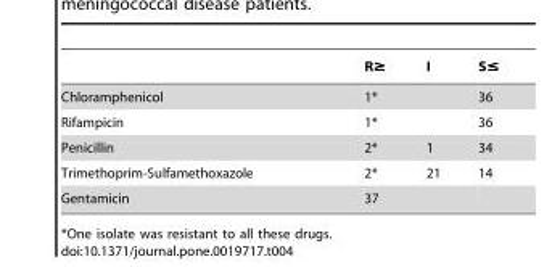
<table><thead><tr><td></td><td>R≥</td><td>I</td><td>S≤</td></tr></thead><tbody><tr><td>Chloramphenicol</td><td>1*</td><td></td><td>36</td></tr><tr><td>Rifampicin</td><td>1*</td><td></td><td>36</td></tr><tr><td>Penicillin</td><td>2*</td><td>1</td><td>34</td></tr><tr><td>Trimethoprim-Sulfamethoxazole</td><td>2*</td><td>21</td><td>14</td></tr><tr><td>Gentamicin</td><td>37</td><td></td><td></td></tr></tbody></table>